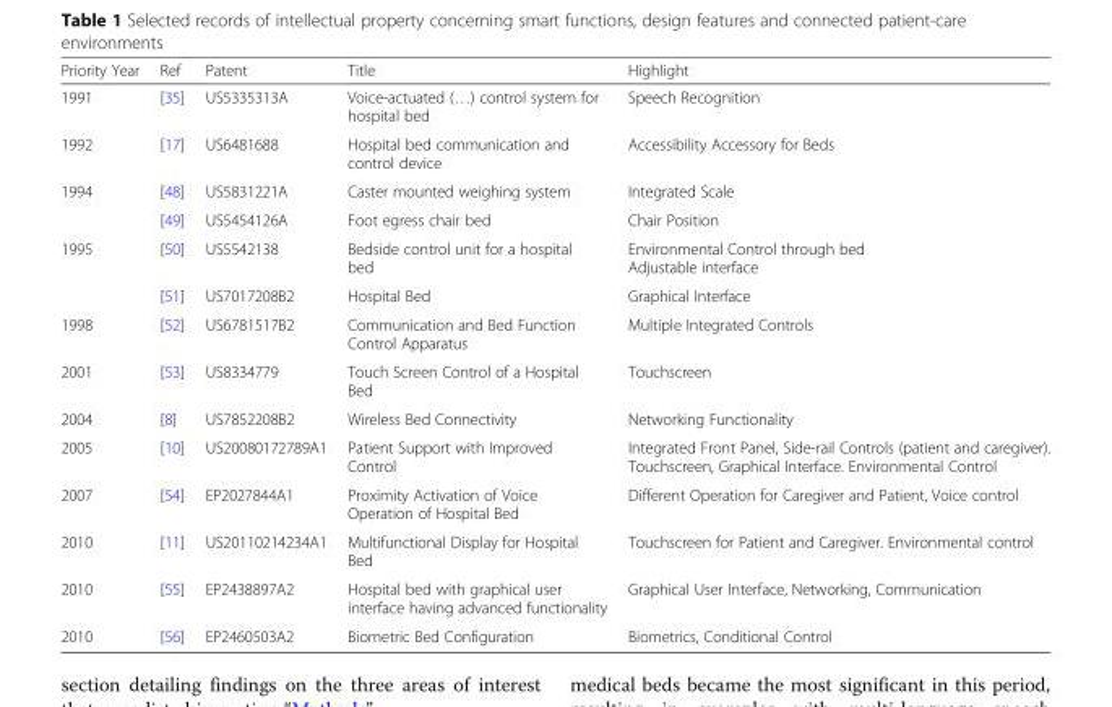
<table><thead><tr><td>Priority Year</td><td>Ref</td><td>Patent</td><td>Title</td><td>Highlight</td></tr></thead><tbody><tr><td>1991</td><td>[35]</td><td>US5335313A</td><td>Voice-actuated (…) control system for hospital bed</td><td>Speech Recognition</td></tr><tr><td>1992</td><td>[17]</td><td>US6481688</td><td>Hospital bed communication and control device</td><td>Accessibility Accessory for Beds</td></tr><tr><td rowspan="2">1994</td><td>[48]</td><td>US5831221A</td><td>Caster mounted weighing system</td><td>Integrated Scale</td></tr><tr><td>[49]</td><td>US5454126A</td><td>Foot egress chair bed</td><td>Chair Position</td></tr><tr><td rowspan="2">1995</td><td>[50]</td><td>US5542138</td><td>Bedside control unit for a hospital bed</td><td>Environmental Control through bed Adjustable interface</td></tr><tr><td>[51]</td><td>US7017208B2</td><td>Hospital Bed</td><td>Graphical Interface</td></tr><tr><td>1998</td><td>[52]</td><td>US6781517B2</td><td>Communication and Bed Function Control Apparatus</td><td>Multiple Integrated Controls</td></tr><tr><td>2001</td><td>[53]</td><td>US8334779</td><td>Touch Screen Control of a Hospital Bed</td><td>Touchscreen</td></tr><tr><td>2004</td><td>[8]</td><td>US7852208B2</td><td>Wireless Bed Connectivity</td><td>Networking Functionality</td></tr><tr><td>2005</td><td>[10]</td><td>US20080172789A1</td><td>Patient Support with Improved Control</td><td>Integrated Front Panel, Side-rail Controls (patient and caregiver). Touchscreen, Graphical Interface. Environmental Control</td></tr><tr><td>2007</td><td>[54]</td><td>EP2027844A1</td><td>Proximity Activation of Voice Operation of Hospital Bed</td><td>Different Operation for Caregiver and Patient, Voice control</td></tr><tr><td>2010</td><td>[11]</td><td>US20110214234A1</td><td>Multifunctional Display for Hospital Bed</td><td>Touchscreen for Patient and Caregiver. Environmental control</td></tr><tr><td>2010</td><td>[55]</td><td>EP2438897A2</td><td>Hospital bed with graphical user interface having advanced functionality</td><td>Graphical User Interface, Networking, Communication</td></tr><tr><td>2010</td><td>[56]</td><td>EP2460503A2</td><td>Biometric Bed Configuration</td><td>Biometrics, Conditional Control</td></tr></tbody></table>